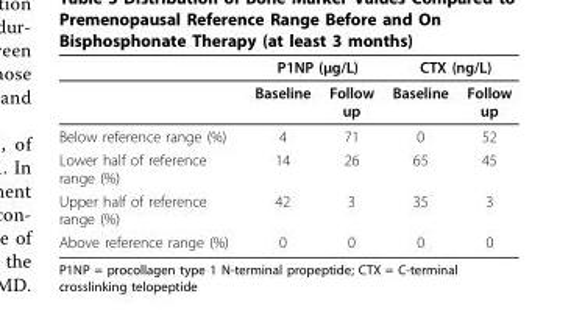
<table><thead><tr><td rowspan="2"></td><td colspan="2">P1NP (μg/L)</td><td colspan="2">CTX (ng/L)</td></tr><tr><td>Baseline</td><td>Follow up</td><td>Baseline</td><td>Follow up</td></tr></thead><tbody><tr><td>Below reference range (%)</td><td>4</td><td>71</td><td>0</td><td>52</td></tr><tr><td>Lower half of reference range (%)</td><td>14</td><td>26</td><td>65</td><td>45</td></tr><tr><td>Upper half of reference range (%)</td><td>42</td><td>3</td><td>35</td><td>3</td></tr><tr><td>Above reference range (%)</td><td>0</td><td>0</td><td>0</td><td>0</td></tr></tbody></table>